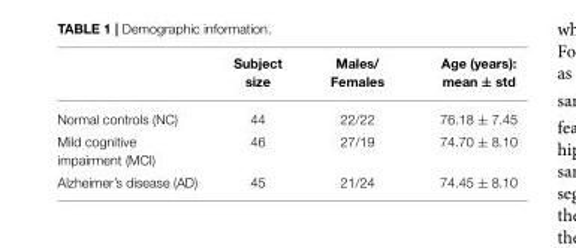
<table><thead><tr><td></td><td>Subject size</td><td>Males/ Females</td><td>Age (years): mean ± std</td></tr></thead><tbody><tr><td>Normal controls (NC)</td><td>44</td><td>22/22</td><td>76.18 ± 7.45</td></tr><tr><td>Mild cognitive impairment (MCI)</td><td>46</td><td>27/19</td><td>74.70 ± 8.10</td></tr><tr><td>Alzheimer’s disease (AD)</td><td>45</td><td>21/24</td><td>74.45 ± 8.10</td></tr></tbody></table>